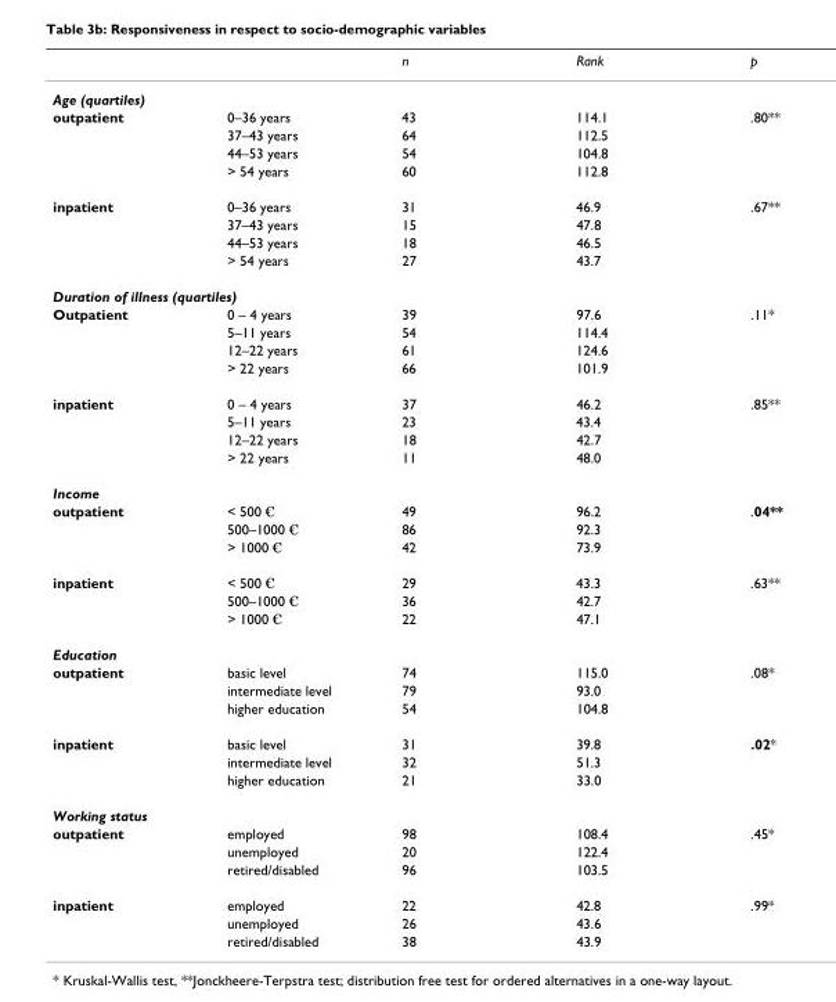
<table><thead><tr><td></td><td></td><td>n</td><td>Rank</td><td>p</td></tr></thead><tbody><tr><td colspan="5">Age (quartiles)</td></tr><tr><td rowspan="4">outpatient</td><td>0–36 years</td><td>43</td><td>114.1</td><td>.80**</td></tr><tr><td>37–43 years</td><td>64</td><td>112.5</td><td></td></tr><tr><td>44–53 years</td><td>54</td><td>104.8</td><td></td></tr><tr><td>&gt; 54 years</td><td>60</td><td>112.8</td><td></td></tr><tr><td rowspan="4">inpatient</td><td>0–36 years</td><td>31</td><td>46.9</td><td>.67**</td></tr><tr><td>37–43 years</td><td>15</td><td>47.8</td><td></td></tr><tr><td>44–53 years</td><td>18</td><td>46.5</td><td></td></tr><tr><td>&gt; 54 years</td><td>27</td><td>43.7</td><td></td></tr><tr><td colspan="5">Duration of illness (quartiles)</td></tr><tr><td rowspan="4">Outpatient</td><td>0 – 4 years</td><td>39</td><td>97.6</td><td>.11*</td></tr><tr><td>5–11 years</td><td>54</td><td>114.4</td><td></td></tr><tr><td>12–22 years</td><td>61</td><td>124.6</td><td></td></tr><tr><td>&gt; 22 years</td><td>66</td><td>101.9</td><td></td></tr><tr><td rowspan="4">inpatient</td><td>0 – 4 years</td><td>37</td><td>46.2</td><td>.85**</td></tr><tr><td>5–11 years</td><td>23</td><td>43.4</td><td></td></tr><tr><td>12–22 years</td><td>18</td><td>42.7</td><td></td></tr><tr><td>&gt; 22 years</td><td>11</td><td>48.0</td><td></td></tr><tr><td colspan="5">Income</td></tr><tr><td rowspan="3">outpatient</td><td>&lt; 500 €</td><td>49</td><td>96.2</td><td>.04**</td></tr><tr><td>500–1000 €</td><td>86</td><td>92.3</td><td></td></tr><tr><td>&gt; 1000 €</td><td>42</td><td>73.9</td><td></td></tr><tr><td rowspan="3">inpatient</td><td>&lt; 500 €</td><td>29</td><td>43.3</td><td>.63**</td></tr><tr><td>500–1000 €</td><td>36</td><td>42.7</td><td></td></tr><tr><td>&gt; 1000 €</td><td>22</td><td>47.1</td><td></td></tr><tr><td colspan="5">Education</td></tr><tr><td rowspan="3">outpatient</td><td>basic level</td><td>74</td><td>115.0</td><td>.08*</td></tr><tr><td>intermediate level</td><td>79</td><td>93.0</td><td></td></tr><tr><td>higher education</td><td>54</td><td>104.8</td><td></td></tr><tr><td rowspan="3">inpatient</td><td>basic level</td><td>31</td><td>39.8</td><td>.02*</td></tr><tr><td>intermediate level</td><td>32</td><td>51.3</td><td></td></tr><tr><td>higher education</td><td>21</td><td>33.0</td><td></td></tr><tr><td colspan="5">Working status</td></tr><tr><td rowspan="3">outpatient</td><td>employed</td><td>98</td><td>108.4</td><td>.45*</td></tr><tr><td>unemployed</td><td>20</td><td>122.4</td><td></td></tr><tr><td>retired/disabled</td><td>96</td><td>103.5</td><td></td></tr><tr><td rowspan="3">inpatient</td><td>employed</td><td>22</td><td>42.8</td><td>.99*</td></tr><tr><td>unemployed</td><td>26</td><td>43.6</td><td></td></tr><tr><td>retired/disabled</td><td>38</td><td>43.9</td><td></td></tr></tbody></table>